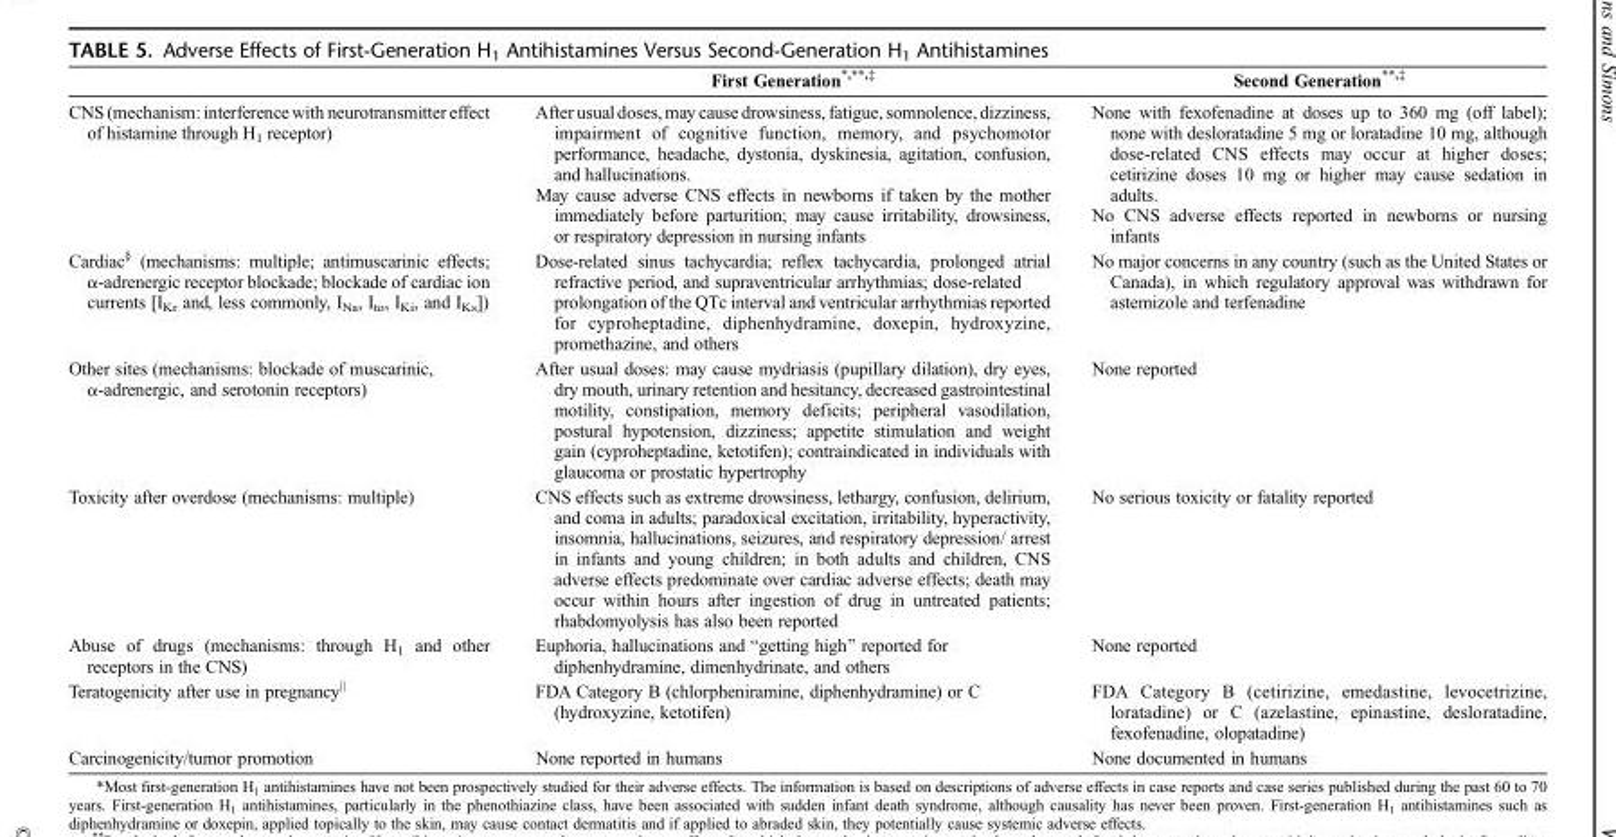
<table><thead><tr><td></td><td>First Generation*,**,<sup>‡</sup></td><td>Second Generation**,<sup>‡</sup></td></tr></thead><tbody><tr><td rowspan="2">CNS (mechanism: interferencewith neurotransmitter effect of histamine through H<sub>1</sub> receptor)</td><td>After usualdoses,may cause drowsiness, fatigue,somnolence,dizziness, impairment of cognitive function, memory, and psychomotor performance, headache, dystonia, dyskinesia, agitation, confusion, and hallucinations. May cause adverse CNS effects in newborns if taken by the mother</td><td>None with fexofenadine at doses up to 360 mg (off label); none with desloratadine 5 mg or loratadine 10 mg, although dose-related CNS effects may occur at higher doses; cetirizine doses 10 mg or higher may cause sedation in adults.</td></tr><tr><td>immediately before parturition; may cause irritability, drowsiness, or respiratory depression in nursing infants</td><td>No CNS adverse effects reported in newborns or nursing infants</td></tr><tr><td>Cardiac§ (mechanisms: multiple; antimuscarinic effects; &gt;-adrenergic receptor blockade; blockade of cardiac ion currents [IKr and, less commonly, INa, Ito, IKi, and IKs])</td><td>Dose-related sinus tachycardia; reflex tachycardia, prolonged atrial refractive period, and supraventricular arrhythmias; dose-related prolongation of the QTc interval and ventricular arrhythmias reported for cyproheptadine, diphenhydramine, doxepin, hydroxyzine, promethazine, and others</td><td>No major concerns in any country (such as the United States or Canada), in which regulatory approval was withdrawn for astemizole and terfenadine</td></tr><tr><td>Other sites (mechanisms: blockade of muscarinic, &gt;-adrenergic, and serotonin receptors)</td><td>After usual doses: may cause mydriasis (pupillary dilation), dry eyes, dry mouth, urinary retention and hesitancy, decreased gastrointestinal motility, constipation, memory deficits; peripheral vasodilation, postural hypotension, dizziness; appetite stimulation and weight gain (cyproheptadine, ketotifen); contraindicated in individuals with glaucoma or prostatic hypertrophy</td><td>None reported</td></tr><tr><td>Toxicity after overdose (mechanisms: multiple)</td><td>CNS effects such as extreme drowsiness, lethargy, confusion, delirium, and coma in adults; paradoxical excitation, irritability, hyperactivity, insomnia, hallucinations, seizures, and respiratory depression/ arrest in infants and young children; in both adults and children, CNS adverse effects predominate over cardiac adverse effects; death may occur within hours after ingestion of drug in untreated patients; rhabdomyolysis has also been reported</td><td>No serious toxicity or fatality reported</td></tr><tr><td>Abuse of drugs (mechanisms: through H<sub>1</sub> and other receptors in the CNS)</td><td>Euphoria, hallucinations and Bgetting high[ reported for diphenhydramine, dimenhydrinate, and others</td><td>None reported</td></tr><tr><td>Teratogenicity after use in pregnancy<sup>||</sup></td><td>FDA Category B (chlorpheniramine, diphenhydramine) or C (hydroxyzine, ketotifen)</td><td>FDA Category B (cetirizine, emedastine, levocetrizine, loratadine) or C (azelastine, epinastine, desloratadine, fexofenadine, olopatadine)</td></tr><tr><td>Carcinogenicity/tumor promotion</td><td>None reported in humans</td><td>None documented in humans</td></tr></tbody></table>